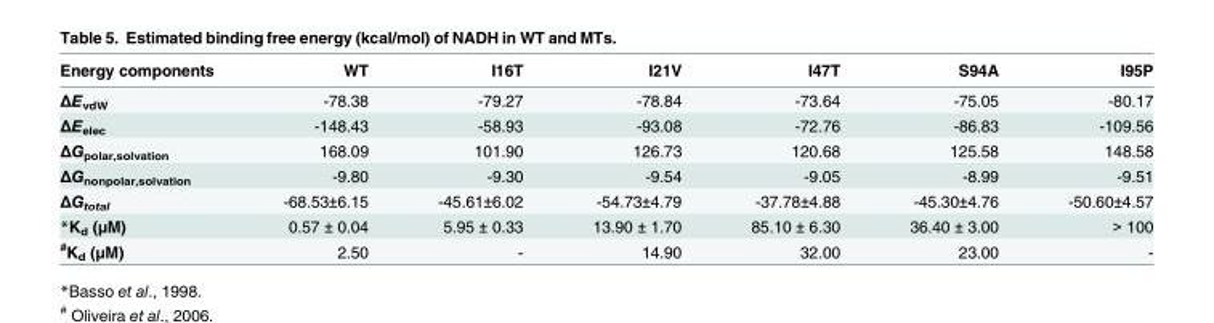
<table><thead><tr><td>Energy components</td><td>WT</td><td>I16T</td><td>I21V</td><td>I47T</td><td>S94A</td><td>I95P</td></tr></thead><tbody><tr><td>ΔE<sub>vdW</sub></td><td>-78.38</td><td>-79.27</td><td>-78.84</td><td>-73.64</td><td>-75.05</td><td>-80.17</td></tr><tr><td>ΔE<sub>elec</sub></td><td>-148.43</td><td>-58.93</td><td>-93.08</td><td>-72.76</td><td>-86.83</td><td>-109.56</td></tr><tr><td>ΔG<sub>polar,solvation</sub></td><td>168.09</td><td>101.90</td><td>126.73</td><td>120.68</td><td>125.58</td><td>148.58</td></tr><tr><td>ΔG<sub>nonpolar,solvation</sub></td><td>-9.80</td><td>-9.30</td><td>-9.54</td><td>-9.05</td><td>-8.99</td><td>-9.51</td></tr><tr><td>ΔG<sub>total</sub></td><td>-68.53±6.15</td><td>-45.61±6.02</td><td>-54.73±4.79</td><td>-37.78±4.88</td><td>-45.30±4.76</td><td>-50.60±4.57</td></tr><tr><td>*K<sub>d</sub> (μM)</td><td>0.57 ± 0.04</td><td>5.95 ± 0.33</td><td>13.90 ± 1.70</td><td>85.10 ± 6.30</td><td>36.40 ± 3.00</td><td>&gt; 100</td></tr><tr><td><sup>#</sup>K<sub>d</sub> (μM)</td><td>2.50</td><td>-</td><td>14.90</td><td>32.00</td><td>23.00</td><td>-</td></tr></tbody></table>